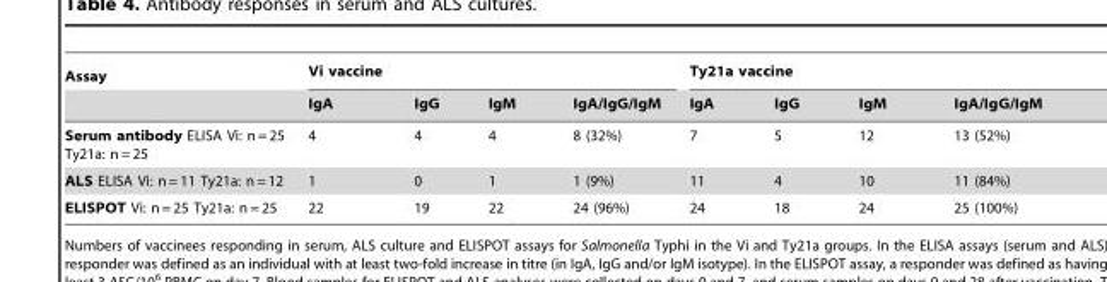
<table><thead><tr><td rowspan="2">Assay</td><td colspan="4">Vi vaccine</td><td colspan="4">Ty21a vaccine</td></tr><tr><td>IgA</td><td>IgG</td><td>IgM</td><td>IgA/IgG/IgM</td><td>IgA</td><td>IgG</td><td>IgM</td><td>IgA/IgG/IgM</td></tr></thead><tbody><tr><td>Serum antibody ELISA Vi: n = 25 Ty21a: n = 25</td><td>4</td><td>4</td><td>4</td><td>8 (32%)</td><td>7</td><td>5</td><td>12</td><td>13 (52%)</td></tr><tr><td>ALS ELISA Vi: n = 11 Ty21a: n = 12</td><td>1</td><td>0</td><td>1</td><td>1 (9%)</td><td>11</td><td>4</td><td>10</td><td>11 (84%)</td></tr><tr><td>ELISPOT Vi: n = 25 Ty21a: n = 25</td><td>22</td><td>19</td><td>22</td><td>24 (96%)</td><td>24</td><td>18</td><td>24</td><td>25 (100%)</td></tr></tbody></table>